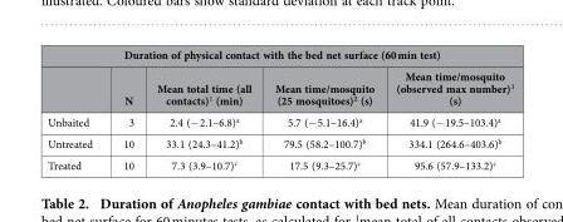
<table><thead><tr><td colspan="5">Duration of physical contact with the bed net surface (60 min test)</td></tr><tr><td></td><td>N</td><td>Mean total time (all contacts)<sup>1</sup> (min)</td><td>Mean time/mosquito (25 mosquitoes)<sup>2</sup> (s)</td><td>Mean time/mosquito (observed max number)<sup>3</sup> (s)</td></tr></thead><tbody><tr><td>Unbaited</td><td>3</td><td>2.4 (− 2.1–6.8)<sup>a</sup></td><td>5.7 (− 5.1–16.4)<sup>a</sup></td><td>41.9 (− 19.5–103.4)<sup>a</sup></td></tr><tr><td>Untreated</td><td>10</td><td>33.1 (24.3–41.2)<sup>b</sup></td><td>79.5 (58.2–100.7)<sup>b</sup></td><td>334.1 (264.6–403.6)<sup>b</sup></td></tr><tr><td>Treated</td><td>10</td><td>7.3 (3.9–10.7)<sup>c</sup></td><td>17.5 (9.3–25.7)<sup>c</sup></td><td>95.6 (57.9–133.2)<sup>c</sup></td></tr></tbody></table>